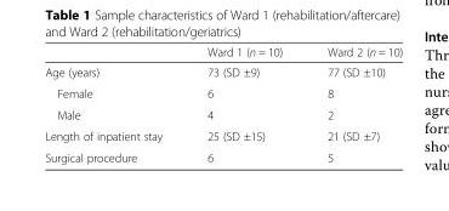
<table><thead><tr><td></td><td>Ward 1 (n = 10)</td><td>Ward 2 (n = 10)</td></tr></thead><tbody><tr><td>Age (years)</td><td>73 (SD ±9)</td><td>77 (SD ±10)</td></tr><tr><td>Female</td><td>6</td><td>8</td></tr><tr><td>Male</td><td>4</td><td>2</td></tr><tr><td>Length of inpatient stay</td><td>25 (SD ±15)</td><td>21 (SD ±7)</td></tr><tr><td>Surgical procedure</td><td>6</td><td>5</td></tr></tbody></table>